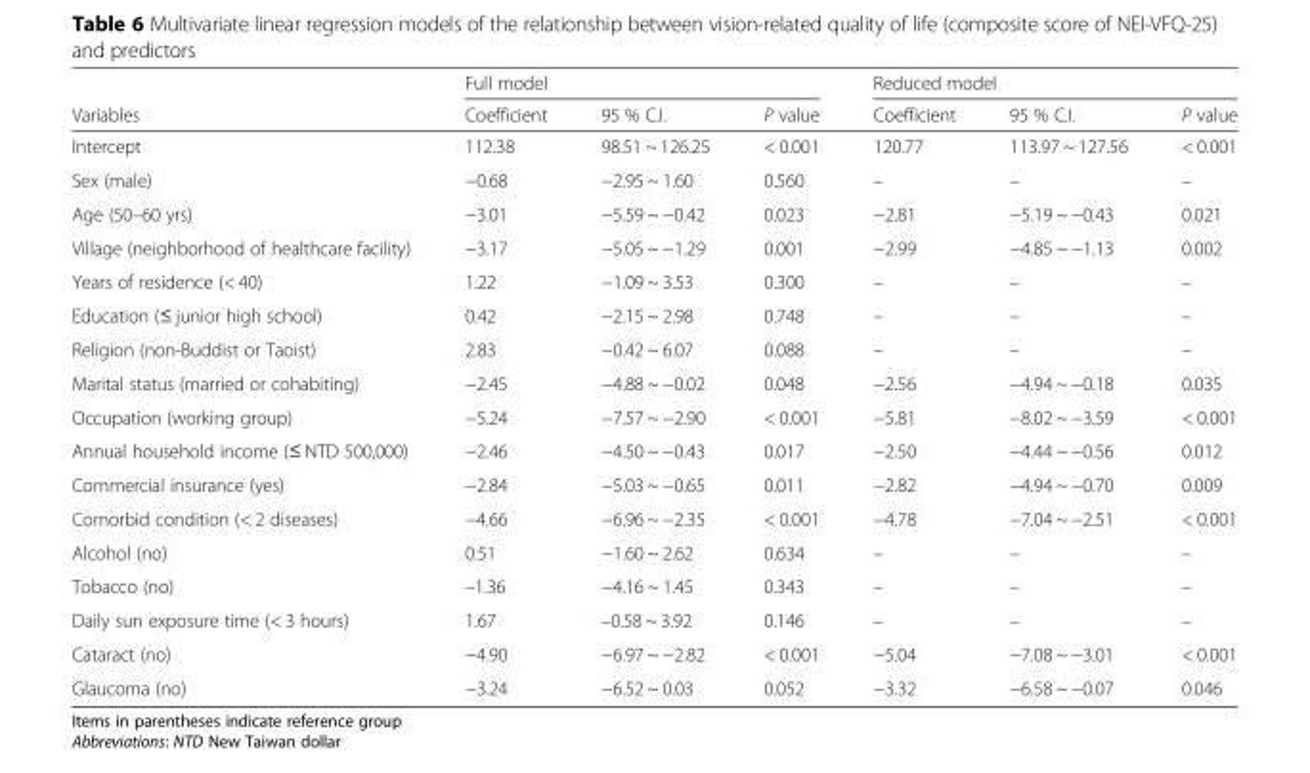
<table><thead><tr><td rowspan="2">Variables</td><td colspan="3">Full model</td><td colspan="3">Reduced model</td></tr><tr><td>Coefficient</td><td>95 % C.I.</td><td>P value</td><td>Coefficient</td><td>95 % C.I.</td><td>P value</td></tr></thead><tbody><tr><td>Intercept</td><td>112.38</td><td>98.51 ~ 126.25</td><td>&lt; 0.001</td><td>120.77</td><td>113.97 ~ 127.56</td><td>&lt; 0.001</td></tr><tr><td>Sex (male)</td><td>−0.68</td><td>−2.95 ~ 1.60</td><td>0.560</td><td>–</td><td>–</td><td>–</td></tr><tr><td>Age (50–60 yrs)</td><td>−3.01</td><td>−5.59 ~ −0.42</td><td>0.023</td><td>−2.81</td><td>−5.19 ~ −0.43</td><td>0.021</td></tr><tr><td>Village (neighborhood of healthcare facility)</td><td>−3.17</td><td>−5.05 ~ −1.29</td><td>0.001</td><td>−2.99</td><td>−4.85 ~ −1.13</td><td>0.002</td></tr><tr><td>Years of residence (&lt; 40)</td><td>1.22</td><td>−1.09 ~ 3.53</td><td>0.300</td><td>–</td><td>–</td><td>–</td></tr><tr><td>Education (≤ junior high school)</td><td>0.42</td><td>−2.15 ~ 2.98</td><td>0.748</td><td>–</td><td>–</td><td>–</td></tr><tr><td>Religion (non-Buddist or Taoist)</td><td>2.83</td><td>−0.42 ~ 6.07</td><td>0.088</td><td>–</td><td>–</td><td>–</td></tr><tr><td>Marital status (married or cohabiting)</td><td>−2.45</td><td>−4.88 ~ −0.02</td><td>0.048</td><td>−2.56</td><td>−4.94 ~ −0.18</td><td>0.035</td></tr><tr><td>Occupation (working group)</td><td>−5.24</td><td>−7.57 ~ −2.90</td><td>&lt; 0.001</td><td>−5.81</td><td>−8.02 ~ −3.59</td><td>&lt; 0.001</td></tr><tr><td>Annual household income (≤ NTD 500,000)</td><td>−2.46</td><td>−4.50 ~ −0.43</td><td>0.017</td><td>−2.50</td><td>−4.44 ~ −0.56</td><td>0.012</td></tr><tr><td>Commercial insurance (yes)</td><td>−2.84</td><td>−5.03 ~ −0.65</td><td>0.011</td><td>−2.82</td><td>−4.94 ~ −0.70</td><td>0.009</td></tr><tr><td>Comorbid condition (&lt; 2 diseases)</td><td>−4.66</td><td>−6.96 ~ −2.35</td><td>&lt; 0.001</td><td>−4.78</td><td>−7.04 ~ −2.51</td><td>&lt; 0.001</td></tr><tr><td>Alcohol (no)</td><td>0.51</td><td>−1.60 ~ 2.62</td><td>0.634</td><td>–</td><td>–</td><td>–</td></tr><tr><td>Tobacco (no)</td><td>–1.36</td><td>−4.16 ~ 1.45</td><td>0.343</td><td>–</td><td>–</td><td>–</td></tr><tr><td>Daily sun exposure time (&lt; 3 hours)</td><td>1.67</td><td>–0.58 ~ 3.92</td><td>0.146</td><td>–</td><td>–</td><td>–</td></tr><tr><td>Cataract (no)</td><td>−4.90</td><td>−6.97 ~ −2.82</td><td>&lt; 0.001</td><td>−5.04</td><td>−7.08 ~ −3.01</td><td>&lt; 0.001</td></tr><tr><td>Glaucoma (no)</td><td>−3.24</td><td>−6.52 ~ 0.03</td><td>0.052</td><td>−3.32</td><td>−6.58 ~ −0.07</td><td>0.046</td></tr></tbody></table>